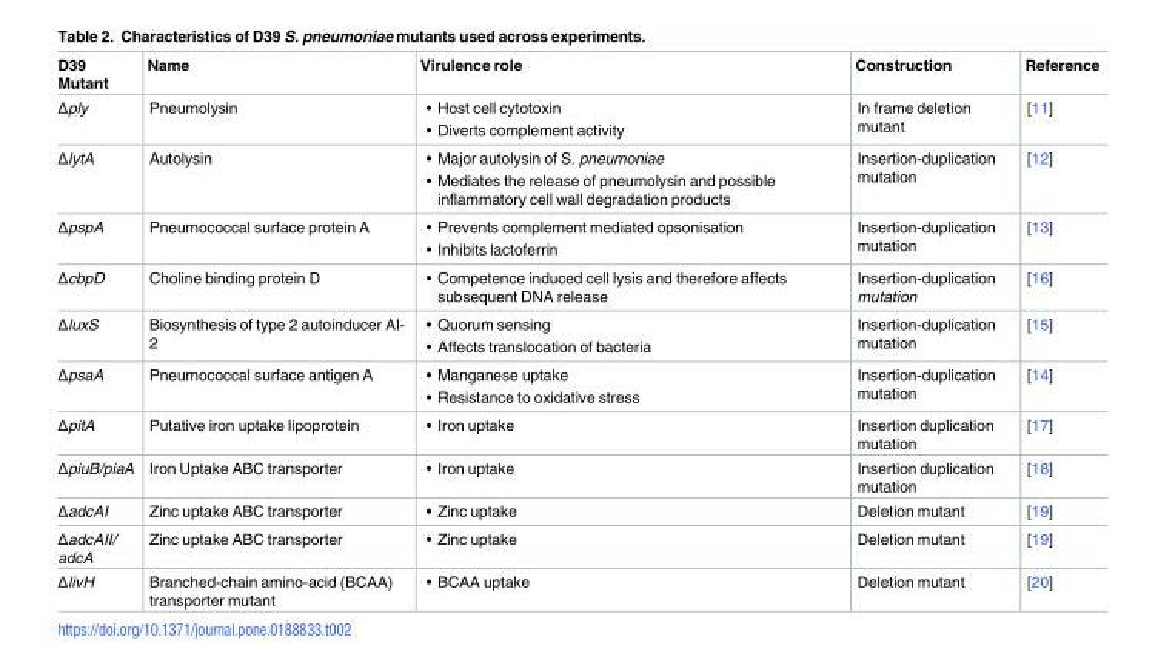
<table><thead><tr><td>D39 Mutant</td><td>Name</td><td>Virulence role</td><td>Construction</td><td>Reference</td></tr></thead><tbody><tr><td>Δply</td><td>Pneumolysin</td><td>• Host cell cytotoxin • Diverts complement activity</td><td>In frame deletion mutant</td><td>[11]</td></tr><tr><td>ΔlytA</td><td>Autolysin</td><td>• Major autolysin of S. pneumoniae • Mediates the release of pneumolysin and possible inflammatory cell wall degradation products</td><td>Insertion-duplication mutation</td><td>[12]</td></tr><tr><td>ΔpspA</td><td>Pneumococcal surface protein A</td><td>• Prevents complement mediated opsonisation • Inhibits lactoferrin</td><td>Insertion-duplication mutation</td><td>[13]</td></tr><tr><td>ΔcbpD</td><td>Choline binding protein D</td><td>• Competence induced cell lysis and therefore affects subsequent DNA release</td><td>Insertion-duplication mutation</td><td>[16]</td></tr><tr><td>ΔluxS</td><td>Biosynthesis of type 2 autoinducer AI- 2</td><td>• Quorum sensing • Affects translocation of bacteria</td><td>Insertion-duplication mutation</td><td>[15]</td></tr><tr><td>ΔpsaA</td><td>Pneumococcal surface antigen A</td><td>• Manganese uptake • Resistance to oxidative stress</td><td>Insertion-duplication mutation</td><td>[14]</td></tr><tr><td>ΔpitA</td><td>Putative iron uptake lipoprotein</td><td>• Iron uptake</td><td>Insertion duplication mutation</td><td>[17]</td></tr><tr><td>ΔpiuB/piaA</td><td>Iron Uptake ABC transporter</td><td>• Iron uptake</td><td>Insertion duplication mutation</td><td>[18]</td></tr><tr><td>ΔadcAI</td><td>Zinc uptake ABC transporter</td><td>• Zinc uptake</td><td>Deletion mutant</td><td>[19]</td></tr><tr><td>ΔadcAII/ adcA</td><td>Zinc uptake ABC transporter</td><td>• Zinc uptake</td><td>Deletion mutant</td><td>[19]</td></tr><tr><td>ΔlivH</td><td>Branched-chain amino-acid (BCAA) transporter mutant</td><td>• BCAA uptake</td><td>Deletion mutant</td><td>[20]</td></tr></tbody></table>